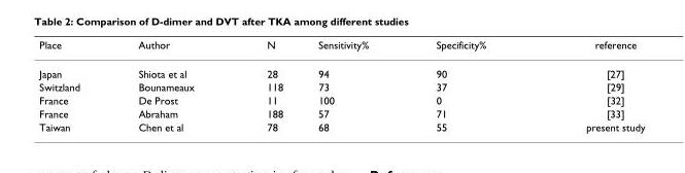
<table><thead><tr><td>Place</td><td>Author</td><td>N</td><td>Sensitivity%</td><td>Specificity%</td><td>reference</td></tr></thead><tbody><tr><td>Japan</td><td>Shiota et al</td><td>28</td><td>94</td><td>90</td><td>[27]</td></tr><tr><td>Switzland</td><td>Bounameaux</td><td>118</td><td>73</td><td>37</td><td>[29]</td></tr><tr><td>France</td><td>De Prost</td><td>11</td><td>100</td><td>0</td><td>[32]</td></tr><tr><td>France</td><td>Abraham</td><td>188</td><td>57</td><td>71</td><td>[33]</td></tr><tr><td>Taiwan</td><td>Chen et al</td><td>78</td><td>68</td><td>55</td><td>present study</td></tr></tbody></table>